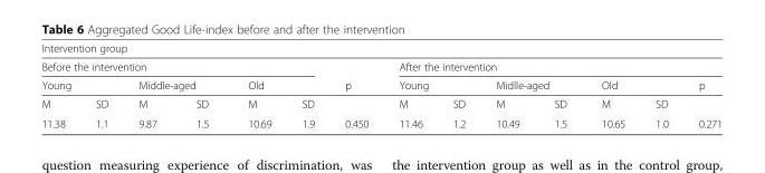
<table><thead><tr><td colspan="14">Intervention group</td></tr><tr><td colspan="6">Before the intervention</td><td rowspan="3">p</td><td colspan="7">After the intervention</td></tr><tr><td colspan="2">Young</td><td colspan="2">Middle-aged</td><td colspan="2">Old</td><td colspan="2">Young</td><td colspan="2">Midlle-aged</td><td colspan="2">Old</td><td rowspan="2">p</td></tr><tr><td>M</td><td>SD</td><td>M</td><td>SD</td><td>M</td><td>SD</td><td>M</td><td>SD</td><td>M</td><td>SD</td><td>M</td><td>SD</td></tr></thead><tbody><tr><td>11.38</td><td>1.1</td><td>9.87</td><td>1.5</td><td>10.69</td><td>1.9</td><td>0.450</td><td>11.46</td><td>1.2</td><td>10.49</td><td>1.5</td><td>10.65</td><td>1.0</td><td>0.271</td></tr></tbody></table>